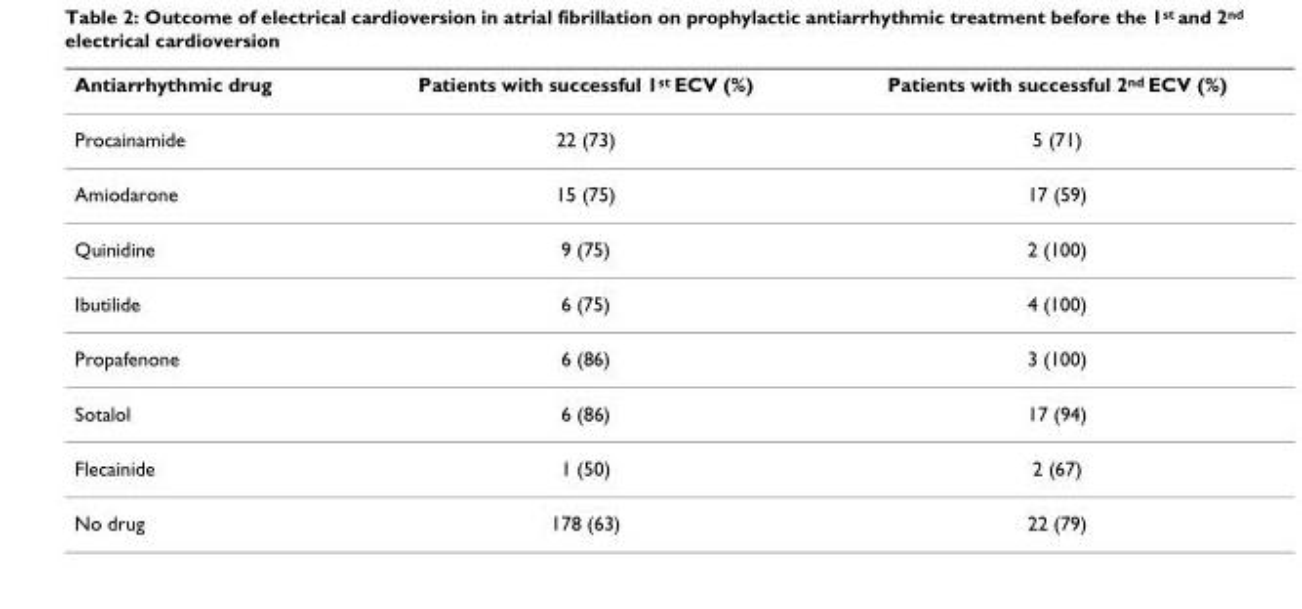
<table><thead><tr><td>Antiarrhythmic drug</td><td>Patients with successful 1<sup>st</sup> ECV (%)</td><td>Patients with successful 2<sup>nd</sup> ECV (%)</td></tr></thead><tbody><tr><td>Procainamide</td><td>22 (73)</td><td>5 (71)</td></tr><tr><td>Amiodarone</td><td>15 (75)</td><td>17 (59)</td></tr><tr><td>Quinidine</td><td>9 (75)</td><td>2 (100)</td></tr><tr><td>Ibutilide</td><td>6 (75)</td><td>4 (100)</td></tr><tr><td>Propafenone</td><td>6 (86)</td><td>3 (100)</td></tr><tr><td>Sotalol</td><td>6 (86)</td><td>17 (94)</td></tr><tr><td>Flecainide</td><td>1 (50)</td><td>2 (67)</td></tr><tr><td>No drug</td><td>178 (63)</td><td>22 (79)</td></tr></tbody></table>